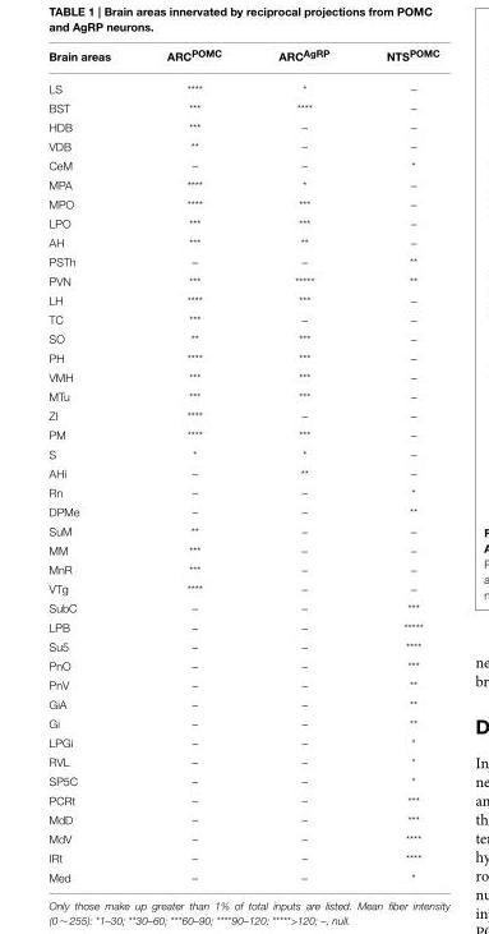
<table><thead><tr><td>Brain areas</td><td>ARC<sup>POMC</sup></td><td>ARC<sup>AgRP</sup></td><td>NTS<sup>POMC</sup></td></tr></thead><tbody><tr><td>LS</td><td>****</td><td>*</td><td>–</td></tr><tr><td>BST</td><td>***</td><td>****</td><td>–</td></tr><tr><td>HDB</td><td>***</td><td>–</td><td>–</td></tr><tr><td>VDB</td><td>**</td><td>–</td><td>–</td></tr><tr><td>CeM</td><td>–</td><td>–</td><td>*</td></tr><tr><td>MPA</td><td>****</td><td>*</td><td>–</td></tr><tr><td>MPO</td><td>****</td><td>***</td><td>–</td></tr><tr><td>LPO</td><td>***</td><td>***</td><td>–</td></tr><tr><td>AH</td><td>***</td><td>**</td><td>–</td></tr><tr><td>PSTh</td><td>–</td><td>–</td><td>**</td></tr><tr><td>PVN</td><td>***</td><td>*****</td><td>**</td></tr><tr><td>LH</td><td>****</td><td>***</td><td>–</td></tr><tr><td>TC</td><td>***</td><td>–</td><td>–</td></tr><tr><td>SO</td><td>**</td><td>***</td><td>–</td></tr><tr><td>PH</td><td>****</td><td>***</td><td>–</td></tr><tr><td>VMH</td><td>***</td><td>***</td><td>–</td></tr><tr><td>MTu</td><td>***</td><td>***</td><td>–</td></tr><tr><td>ZI</td><td>****</td><td>–</td><td>–</td></tr><tr><td>PM</td><td>****</td><td>***</td><td>–</td></tr><tr><td>S</td><td>*</td><td>*</td><td>–</td></tr><tr><td>AHi</td><td>–</td><td>**</td><td>–</td></tr><tr><td>Rn</td><td>–</td><td>–</td><td>*</td></tr><tr><td>DPMe</td><td>–</td><td>–</td><td>**</td></tr><tr><td>SuM</td><td>**</td><td>–</td><td>–</td></tr><tr><td>MM</td><td>***</td><td>–</td><td>–</td></tr><tr><td>MnR</td><td>***</td><td>–</td><td>–</td></tr><tr><td>VTg</td><td>****</td><td>–</td><td>–</td></tr><tr><td>SubC</td><td>–</td><td>–</td><td>***</td></tr><tr><td>LPB</td><td>–</td><td>–</td><td>*****</td></tr><tr><td>Su5</td><td>–</td><td>–</td><td>****</td></tr><tr><td>PnO</td><td>–</td><td>–</td><td>***</td></tr><tr><td>PnV</td><td>–</td><td>–</td><td>**</td></tr><tr><td>GiA</td><td>–</td><td>–</td><td>**</td></tr><tr><td>Gi</td><td>–</td><td>–</td><td>**</td></tr><tr><td>LPGi</td><td>–</td><td>–</td><td>*</td></tr><tr><td>RVL</td><td>–</td><td>–</td><td>*</td></tr><tr><td>SP5C</td><td>–</td><td>–</td><td>*</td></tr><tr><td>PCRt</td><td>–</td><td>–</td><td>***</td></tr><tr><td>MdD</td><td>–</td><td>–</td><td>***</td></tr><tr><td>MdV</td><td>–</td><td>–</td><td>****</td></tr><tr><td>IRt</td><td>–</td><td>–</td><td>****</td></tr><tr><td>Med</td><td>–</td><td>–</td><td>*</td></tr></tbody></table>